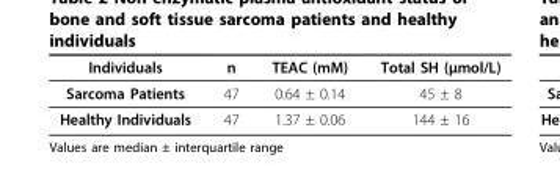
<table><thead><tr><td>Individuals</td><td>n</td><td>TEAC (mM)</td><td>Total SH (μmol/L)</td></tr></thead><tbody><tr><td>Sarcoma Patients</td><td>47</td><td>0.64 ± 0.14</td><td>45 ± 8</td></tr><tr><td>Healthy Individuals</td><td>47</td><td>1.37 ± 0.06</td><td>144 ± 16</td></tr></tbody></table>